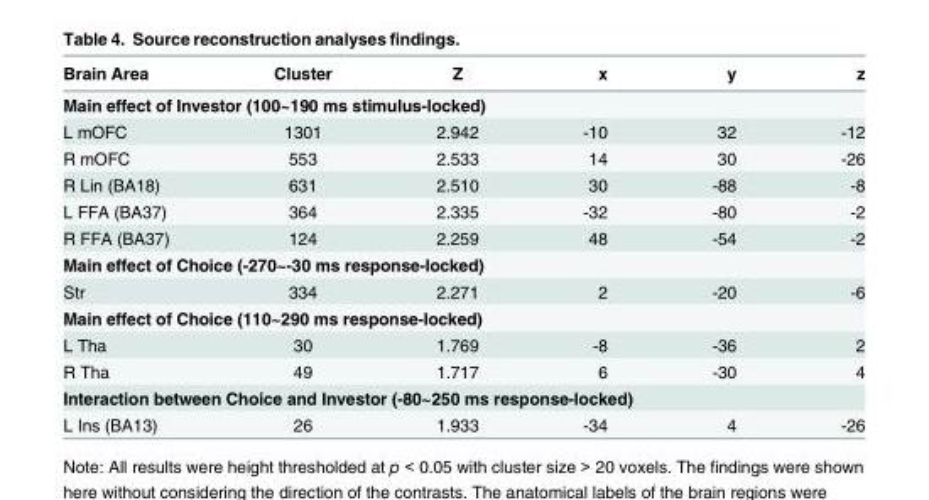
<table><thead><tr><td>Brain Area</td><td>Cluster</td><td>Z</td><td>x</td><td>y</td><td>z</td></tr></thead><tbody><tr><td colspan="6">Main effect of Investor (100~190 ms stimulus-locked)</td></tr><tr><td>L mOFC</td><td>1301</td><td>2.942</td><td>-10</td><td>32</td><td>-12</td></tr><tr><td>R mOFC</td><td>553</td><td>2.533</td><td>14</td><td>30</td><td>-26</td></tr><tr><td>R Lin (BA18)</td><td>631</td><td>2.510</td><td>30</td><td>-88</td><td>-8</td></tr><tr><td>L FFA (BA37)</td><td>364</td><td>2.335</td><td>-32</td><td>-80</td><td>-2</td></tr><tr><td>R FFA (BA37)</td><td>124</td><td>2.259</td><td>48</td><td>-54</td><td>-2</td></tr><tr><td colspan="6">Main effect of Choice (-270~-30 ms response-locked)</td></tr><tr><td>Str</td><td>334</td><td>2.271</td><td>2</td><td>-20</td><td>-6</td></tr><tr><td colspan="6">Main effect of Choice (110~290 ms response-locked)</td></tr><tr><td>L Tha</td><td>30</td><td>1.769</td><td>-8</td><td>-36</td><td>2</td></tr><tr><td>R Tha</td><td>49</td><td>1.717</td><td>6</td><td>-30</td><td>4</td></tr><tr><td colspan="6">Interaction between Choice and Investor (-80~250 ms response-locked)</td></tr><tr><td>L Ins (BA13)</td><td>26</td><td>1.933</td><td>-34</td><td>4</td><td>-26</td></tr></tbody></table>